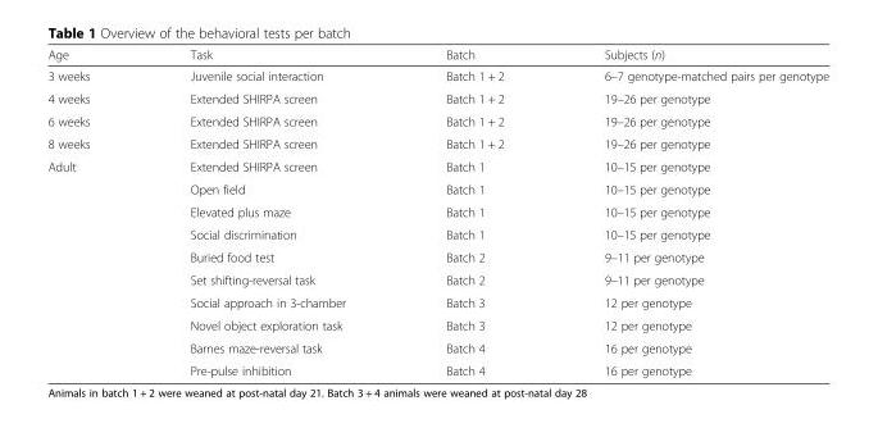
<table><thead><tr><td>Age</td><td>Task</td><td>Batch</td><td>Subjects (n)</td></tr></thead><tbody><tr><td>3 weeks</td><td>Juvenile social interaction</td><td>Batch 1 + 2</td><td>6–7 genotype-matched pairs per genotype</td></tr><tr><td>4 weeks</td><td>Extended SHIRPA screen</td><td>Batch 1 + 2</td><td>19–26 per genotype</td></tr><tr><td>6 weeks</td><td>Extended SHIRPA screen</td><td>Batch 1 + 2</td><td>19–26 per genotype</td></tr><tr><td>8 weeks</td><td>Extended SHIRPA screen</td><td>Batch 1 + 2</td><td>19–26 per genotype</td></tr><tr><td rowspan="10">Adult</td><td>Extended SHIRPA screen</td><td>Batch 1</td><td>10–15 per genotype</td></tr><tr><td>Open field</td><td>Batch 1</td><td>10–15 per genotype</td></tr><tr><td>Elevated plus maze</td><td>Batch 1</td><td>10–15 per genotype</td></tr><tr><td>Social discrimination</td><td>Batch 1</td><td>10–15 per genotype</td></tr><tr><td>Buried food test</td><td>Batch 2</td><td>9–11 per genotype</td></tr><tr><td>Set shifting-reversal task</td><td>Batch 2</td><td>9–11 per genotype</td></tr><tr><td>Social approach in 3-chamber</td><td>Batch 3</td><td>12 per genotype</td></tr><tr><td>Novel object exploration task</td><td>Batch 3</td><td>12 per genotype</td></tr><tr><td>Barnes maze-reversal task</td><td>Batch 4</td><td>16 per genotype</td></tr><tr><td>Pre-pulse inhibition</td><td>Batch 4</td><td>16 per genotype</td></tr></tbody></table>